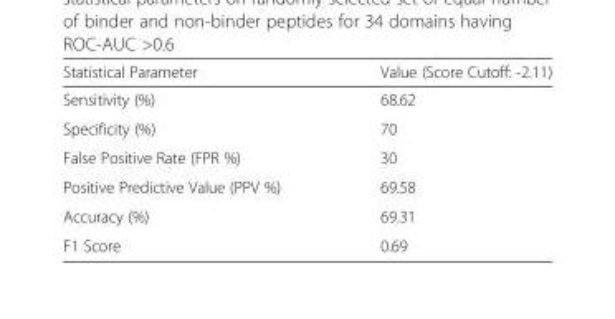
<table><thead><tr><td>Statistical Parameter</td><td>Value (Score Cutoff: -2.11)</td></tr></thead><tbody><tr><td>Sensitivity (%)</td><td>68.62</td></tr><tr><td>Specificity (%)</td><td>70</td></tr><tr><td>False Positive Rate (FPR %)</td><td>30</td></tr><tr><td>Positive Predictive Value (PPV %)</td><td>69.58</td></tr><tr><td>Accuracy (%)</td><td>69.31</td></tr><tr><td>F1 Score</td><td>0.69</td></tr></tbody></table>